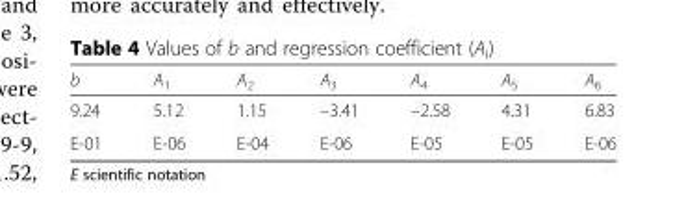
<table><thead><tr><td>b</td><td>A<sub>1</sub></td><td>A<sub>2</sub></td><td>A<sub>3</sub></td><td>A<sub>4</sub></td><td>A<sub>5</sub></td><td>A<sub>6</sub></td></tr></thead><tbody><tr><td>9.24</td><td>5.12</td><td>1.15</td><td>–3.41</td><td>–2.58</td><td>4.31</td><td>6.83</td></tr><tr><td>E-01</td><td>E-06</td><td>E-04</td><td>E-06</td><td>E-05</td><td>E-05</td><td>E-06</td></tr></tbody></table>